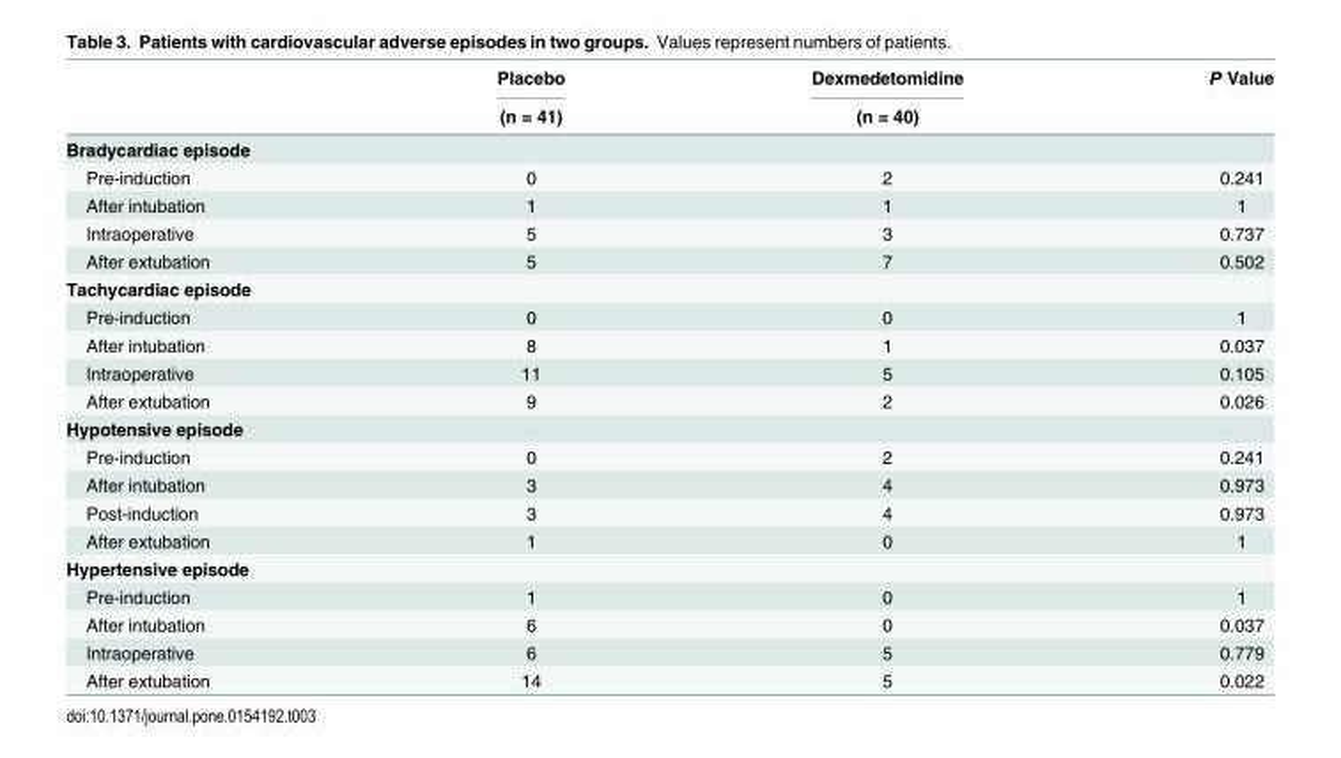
<table><thead><tr><td rowspan="2"></td><td rowspan="2">Placebo (n = 41)</td><td rowspan="2">Dexmedetomidine (n = 40)</td><td rowspan="2">P Value</td></tr><tr></tr></thead><tbody><tr><td colspan="4">Bradycardiac episode</td></tr><tr><td>Pre-induction</td><td>0</td><td>2</td><td>0.241</td></tr><tr><td>After intubation</td><td>1</td><td>1</td><td>1</td></tr><tr><td>Intraoperative</td><td>5</td><td>3</td><td>0.737</td></tr><tr><td>After extubation</td><td>5</td><td>7</td><td>0.502</td></tr><tr><td colspan="4">Tachycardiac episode</td></tr><tr><td>Pre-induction</td><td>0</td><td>0</td><td>1</td></tr><tr><td>After intubation</td><td>8</td><td>1</td><td>0.037</td></tr><tr><td>Intraoperative</td><td>11</td><td>5</td><td>0.105</td></tr><tr><td>After extubation</td><td>9</td><td>2</td><td>0.026</td></tr><tr><td colspan="4">Hypotensive episode</td></tr><tr><td>Pre-induction</td><td>0</td><td>2</td><td>0.241</td></tr><tr><td>After intubation</td><td>3</td><td>4</td><td>0.973</td></tr><tr><td>Post-induction</td><td>3</td><td>4</td><td>0.973</td></tr><tr><td>After extubation</td><td>1</td><td>0</td><td>1</td></tr><tr><td colspan="4">Hypertensive episode</td></tr><tr><td>Pre-induction</td><td>1</td><td>0</td><td>1</td></tr><tr><td>After intubation</td><td>6</td><td>0</td><td>0.037</td></tr><tr><td>Intraoperative</td><td>6</td><td>5</td><td>0.779</td></tr><tr><td>After extubation</td><td>14</td><td>5</td><td>0.022</td></tr></tbody></table>